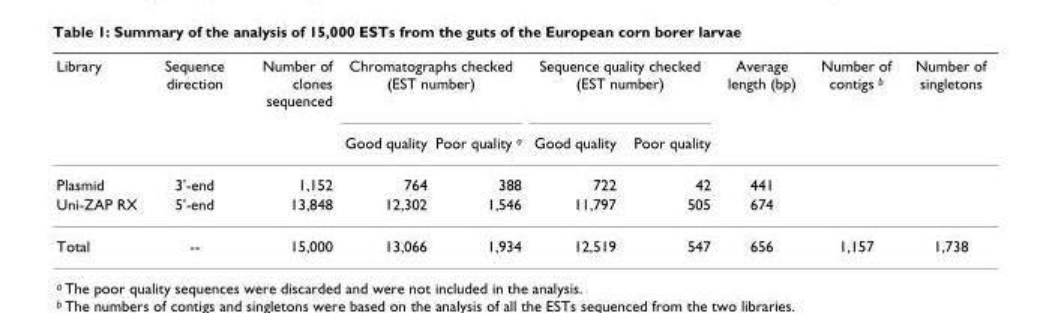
<table><thead><tr><td rowspan="2">Library</td><td rowspan="2">Sequence direction</td><td rowspan="2">Number of clones sequenced</td><td colspan="2">Chromatographs checked (EST number)</td><td colspan="2">Sequence quality checked (EST number)</td><td rowspan="2">Average length (bp)</td><td rowspan="2">Number of contigs <sup>b</sup></td><td rowspan="2">Number of singletons</td></tr><tr><td>Good quality</td><td>Poor quality <sup>a</sup></td><td>Good quality</td><td>Poor quality</td></tr></thead><tbody><tr><td>Plasmid</td><td>3&#x27;-end</td><td>1,152</td><td>764</td><td>388</td><td>722</td><td>42</td><td>441</td><td></td><td></td></tr><tr><td>Uni-ZAP RX</td><td>5&#x27;-end</td><td>13,848</td><td>12,302</td><td>1,546</td><td>11,797</td><td>505</td><td>674</td><td></td><td></td></tr><tr><td>Total</td><td>--</td><td>15,000</td><td>13,066</td><td>1,934</td><td>12,519</td><td>547</td><td>656</td><td>1,157</td><td>1,738</td></tr></tbody></table>